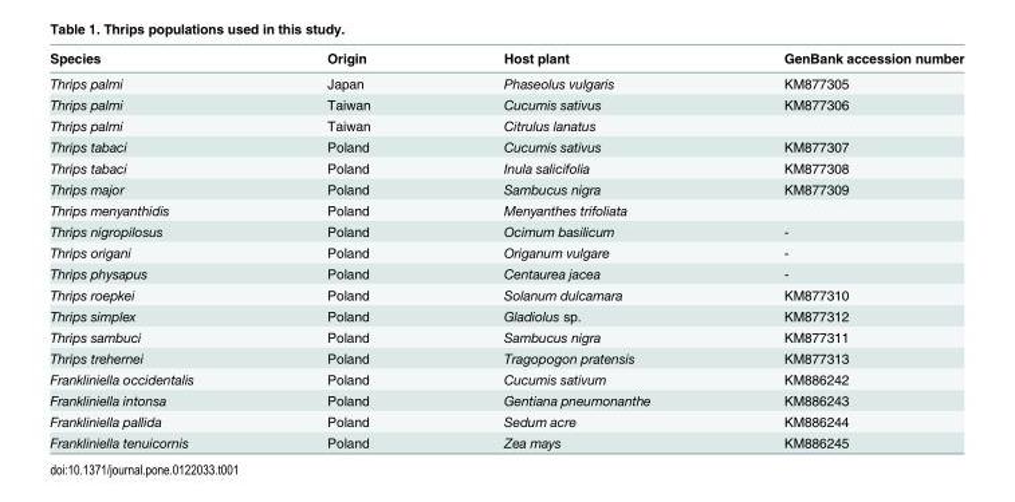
<table><thead><tr><td>Species</td><td>Origin</td><td>Host plant</td><td>GenBank accession number</td></tr></thead><tbody><tr><td>Thrips palmi</td><td>Japan</td><td>Phaseolus vulgaris</td><td>KM877305</td></tr><tr><td>Thrips palmi</td><td>Taiwan</td><td>Cucumis sativus</td><td>KM877306</td></tr><tr><td>Thrips palmi</td><td>Taiwan</td><td>Citrulus lanatus</td><td></td></tr><tr><td>Thrips tabaci</td><td>Poland</td><td>Cucumis sativus</td><td>KM877307</td></tr><tr><td>Thrips tabaci</td><td>Poland</td><td>Inula salicifolia</td><td>KM877308</td></tr><tr><td>Thrips major</td><td>Poland</td><td>Sambucus nigra</td><td>KM877309</td></tr><tr><td>Thrips menyanthidis</td><td>Poland</td><td>Menyanthes trifoliata</td><td></td></tr><tr><td>Thrips nigropilosus</td><td>Poland</td><td>Ocimum basilicum</td><td>-</td></tr><tr><td>Thrips origani</td><td>Poland</td><td>Origanum vulgare</td><td>-</td></tr><tr><td>Thrips physapus</td><td>Poland</td><td>Centaurea jacea</td><td>-</td></tr><tr><td>Thrips roepkei</td><td>Poland</td><td>Solanum dulcamara</td><td>KM877310</td></tr><tr><td>Thrips simplex</td><td>Poland</td><td>Gladiolus sp.</td><td>KM877312</td></tr><tr><td>Thrips sambuci</td><td>Poland</td><td>Sambucus nigra</td><td>KM877311</td></tr><tr><td>Thrips trehernei</td><td>Poland</td><td>Tragopogon pratensis</td><td>KM877313</td></tr><tr><td>Frankliniella occidentalis</td><td>Poland</td><td>Cucumis sativum</td><td>KM886242</td></tr><tr><td>Frankliniella intonsa</td><td>Poland</td><td>Gentiana pneumonanthe</td><td>KM886243</td></tr><tr><td>Frankliniella pallida</td><td>Poland</td><td>Sedum acre</td><td>KM886244</td></tr><tr><td>Frankliniella tenuicornis</td><td>Poland</td><td>Zea mays</td><td>KM886245</td></tr></tbody></table>